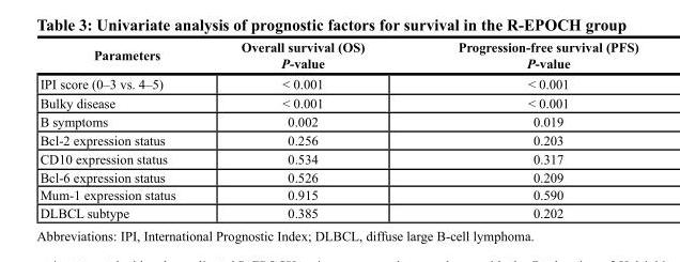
<table><thead><tr><td>Parameters</td><td>overall survival (os) P-value</td><td>Progression-free survival (PFs) P-value</td></tr></thead><tbody><tr><td>IPI score (0–3 vs. 4–5)</td><td>&lt; 0.001</td><td>&lt; 0.001</td></tr><tr><td>Bulky disease</td><td>&lt; 0.001</td><td>&lt; 0.001</td></tr><tr><td>B symptoms</td><td>0.002</td><td>0.019</td></tr><tr><td>Bcl-2 expression status</td><td>0.256</td><td>0.203</td></tr><tr><td>CD10 expression status</td><td>0.534</td><td>0.317</td></tr><tr><td>Bcl-6 expression status</td><td>0.526</td><td>0.209</td></tr><tr><td>Mum-1 expression status</td><td>0.915</td><td>0.590</td></tr><tr><td>DLBCL subtype</td><td>0.385</td><td>0.202</td></tr></tbody></table>